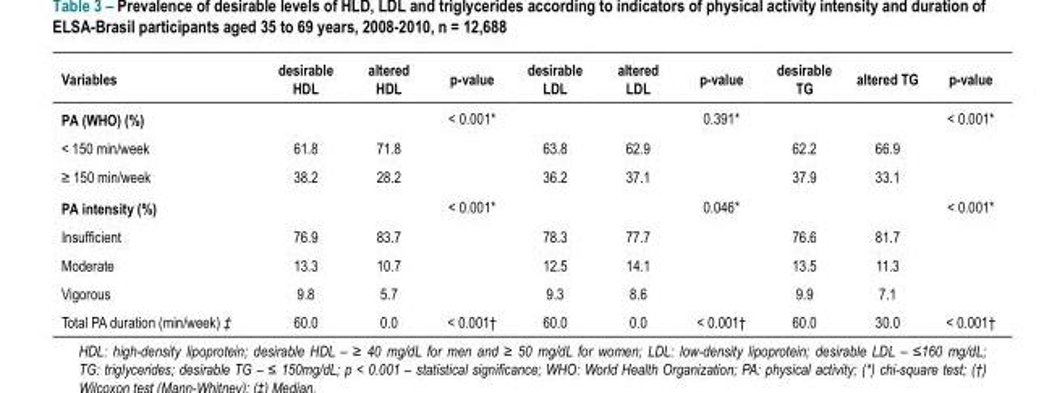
<table><thead><tr><td>Variables</td><td>desirable HDL</td><td>altered HDL</td><td>p-value</td><td>desirable LDL</td><td>altered LDL</td><td>p-value</td><td>desirable TG</td><td>altered TG</td><td>p-value</td></tr></thead><tbody><tr><td>PA (WHO) (%)</td><td></td><td></td><td>&lt; 0.001*</td><td></td><td></td><td>0.391*</td><td></td><td></td><td>&lt; 0.001*</td></tr><tr><td>&lt; 150 min/week</td><td>61.8</td><td>71.8</td><td></td><td>63.8</td><td>62.9</td><td></td><td>62.2</td><td>66.9</td><td></td></tr><tr><td>≥ 150 min/week</td><td>38.2</td><td>28.2</td><td></td><td>36.2</td><td>37.1</td><td></td><td>37.9</td><td>33.1</td><td></td></tr><tr><td>PA intensity (%)</td><td></td><td></td><td>&lt; 0.001*</td><td></td><td></td><td>0.046*</td><td></td><td></td><td>&lt; 0.001*</td></tr><tr><td>Insufficient</td><td>76.9</td><td>83.7</td><td></td><td>78.3</td><td>77.7</td><td></td><td>76.6</td><td>81.7</td><td></td></tr><tr><td>Moderate</td><td>13.3</td><td>10.7</td><td></td><td>12.5</td><td>14.1</td><td></td><td>13.5</td><td>11.3</td><td></td></tr><tr><td>Vigorous</td><td>9.8</td><td>5.7</td><td></td><td>9.3</td><td>8.6</td><td></td><td>9.9</td><td>7.1</td><td></td></tr><tr><td>Total PA duration (min/week) ‡</td><td>60.0</td><td>0.0</td><td>&lt; 0.001†</td><td>60.0</td><td>0.0</td><td>&lt; 0.001†</td><td>60.0</td><td>30.0</td><td>&lt; 0.001†</td></tr></tbody></table>